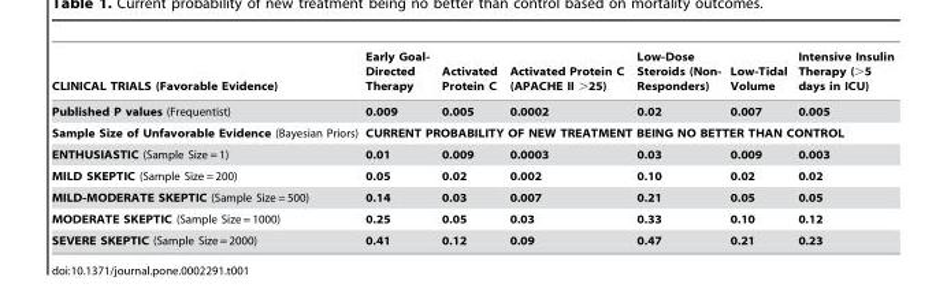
<table><thead><tr><td>CLINICAL TRIALS (Favorable Evidence)</td><td>Early Goal- Directed Therapy</td><td>Activated Protein C</td><td>Activated Protein C (APACHE II &gt;25)</td><td>Low-Dose Steroids (Non- Responders)</td><td>Low-Tidal Volume</td><td>Intensive Insulin Therapy (&gt;5 days in ICU)</td></tr></thead><tbody><tr><td>Published P values (Frequentist)</td><td>0.009</td><td>0.005</td><td>0.0002</td><td>0.02</td><td>0.007</td><td>0.005</td></tr><tr><td>Sample Size of Unfavorable Evidence (Bayesian Priors)</td><td colspan="6">CURRENT PROBABILITY OF NEW TREATMENT BEING NO BETTER THAN CONTROL</td></tr><tr><td>ENTHUSIASTIC (Sample Size = 1)</td><td>0.01</td><td>0.009</td><td>0.0003</td><td>0.03</td><td>0.009</td><td>0.003</td></tr><tr><td>MILD SKEPTIC (Sample Size = 200)</td><td>0.05</td><td>0.02</td><td>0.002</td><td>0.10</td><td>0.02</td><td>0.02</td></tr><tr><td>MILD-MODERATE SKEPTIC (Sample Size = 500)</td><td>0.14</td><td>0.03</td><td>0.007</td><td>0.21</td><td>0.05</td><td>0.05</td></tr><tr><td>MODERATE SKEPTIC (Sample Size = 1000)</td><td>0.25</td><td>0.05</td><td>0.03</td><td>0.33</td><td>0.10</td><td>0.12</td></tr><tr><td>SEVERE SKEPTIC (Sample Size = 2000)</td><td>0.41</td><td>0.12</td><td>0.09</td><td>0.47</td><td>0.21</td><td>0.23</td></tr></tbody></table>